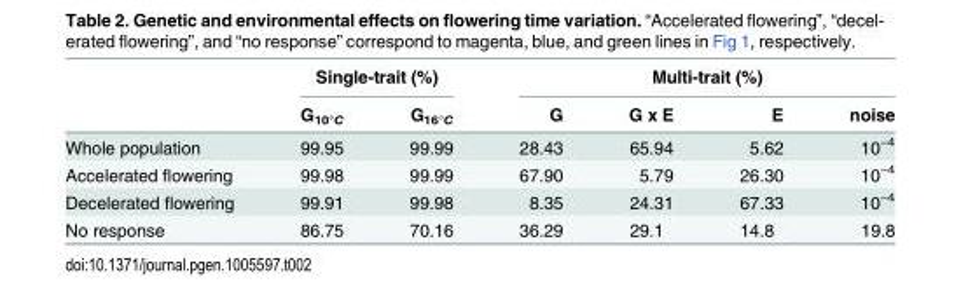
<table><thead><tr><td rowspan="2"></td><td colspan="2">Single-trait (%)</td><td colspan="4">Multi-trait (%)</td></tr><tr><td>G<sub>10°C</sub></td><td>G<sub>16°C</sub></td><td>G</td><td>G x E</td><td>E</td><td>noise</td></tr></thead><tbody><tr><td>Whole population</td><td>99.95</td><td>99.99</td><td>28.43</td><td>65.94</td><td>5.62</td><td>10<sup>−4</sup></td></tr><tr><td>Accelerated flowering</td><td>99.98</td><td>99.99</td><td>67.90</td><td>5.79</td><td>26.30</td><td>10<sup>−4</sup></td></tr><tr><td>Decelerated flowering</td><td>99.91</td><td>99.98</td><td>8.35</td><td>24.31</td><td>67.33</td><td>10<sup>−4</sup></td></tr><tr><td>No response</td><td>86.75</td><td>70.16</td><td>36.29</td><td>29.1</td><td>14.8</td><td>19.8</td></tr></tbody></table>